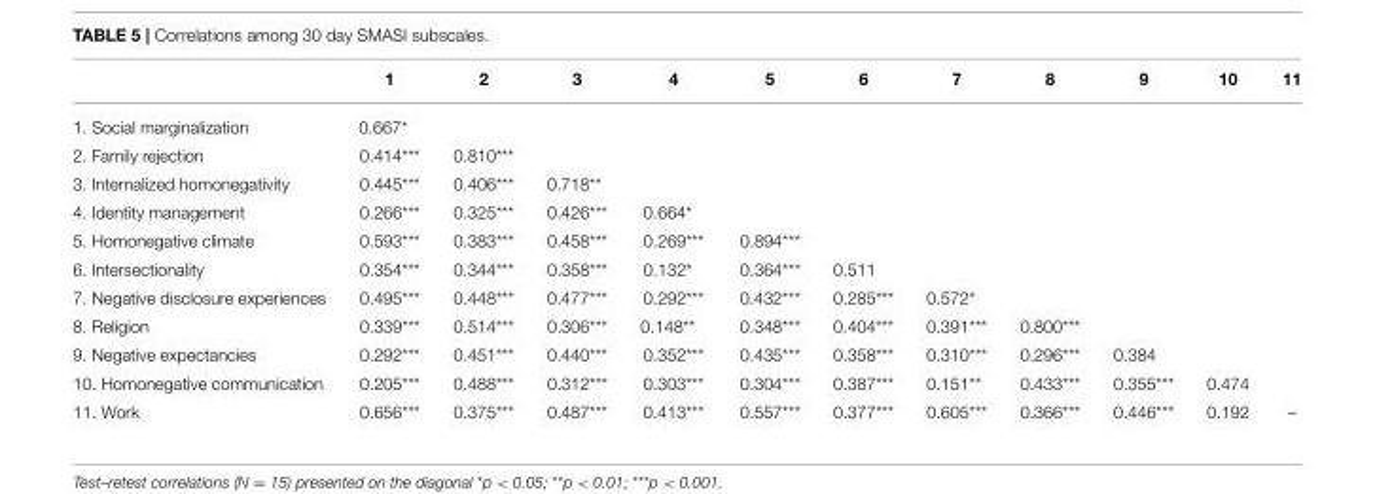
<table><thead><tr><td></td><td>1</td><td>2</td><td>3</td><td>4</td><td>5</td><td>6</td><td>7</td><td>8</td><td>9</td><td>10</td><td>11</td></tr></thead><tbody><tr><td>1. Social marginalization</td><td>0.667*</td><td></td><td></td><td></td><td></td><td></td><td></td><td></td><td></td><td></td><td></td></tr><tr><td>2. Family rejection</td><td>0.414***</td><td>0.810***</td><td></td><td></td><td></td><td></td><td></td><td></td><td></td><td></td><td></td></tr><tr><td>3. Internalized homonegativity</td><td>0.445***</td><td>0.406***</td><td>0.718**</td><td></td><td></td><td></td><td></td><td></td><td></td><td></td><td></td></tr><tr><td>4. Identity management</td><td>0.266***</td><td>0.325***</td><td>0.426***</td><td>0.664*</td><td></td><td></td><td></td><td></td><td></td><td></td><td></td></tr><tr><td>5. Homonegative climate</td><td>0.593***</td><td>0.383***</td><td>0.458***</td><td>0.269***</td><td>0.894***</td><td></td><td></td><td></td><td></td><td></td><td></td></tr><tr><td>6. Intersectionality</td><td>0.354***</td><td>0.344***</td><td>0.358***</td><td>0.132*</td><td>0.364***</td><td>0.511</td><td></td><td></td><td></td><td></td><td></td></tr><tr><td>7. Negative disclosure experiences</td><td>0.495***</td><td>0.448***</td><td>0.477***</td><td>0.292***</td><td>0.432***</td><td>0.285***</td><td>0.572*</td><td></td><td></td><td></td><td></td></tr><tr><td>8. Religion</td><td>0.339***</td><td>0.514***</td><td>0.306***</td><td>0.148**</td><td>0.348***</td><td>0.404***</td><td>0.391***</td><td>0.800***</td><td></td><td></td><td></td></tr><tr><td>9. Negative expectancies</td><td>0.292***</td><td>0.451***</td><td>0.440***</td><td>0.352***</td><td>0.435***</td><td>0.358***</td><td>0.310***</td><td>0.296***</td><td>0.384</td><td></td><td></td></tr><tr><td>10. Homonegative communication</td><td>0.205***</td><td>0.488***</td><td>0.312***</td><td>0.303***</td><td>0.304***</td><td>0.387***</td><td>0.151**</td><td>0.433***</td><td>0.355***</td><td>0.474</td><td></td></tr><tr><td>11. Work</td><td>0.656***</td><td>0.375***</td><td>0.487***</td><td>0.413***</td><td>0.557***</td><td>0.377***</td><td>0.605***</td><td>0.366***</td><td>0.446***</td><td>0.192</td><td>–</td></tr></tbody></table>